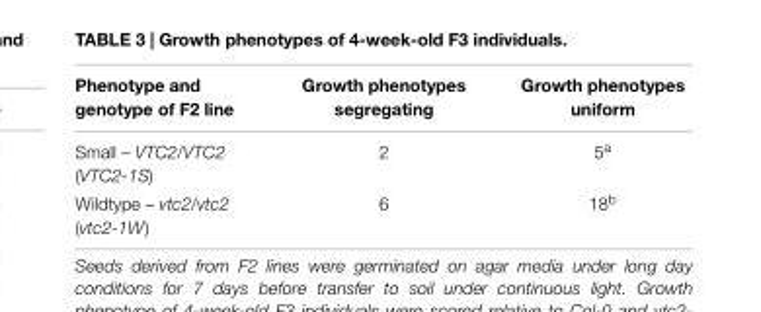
<table><thead><tr><td>Phenotype and genotype of F2 line</td><td>Growth phenotypes segregating</td><td>Growth phenotypes uniform</td></tr></thead><tbody><tr><td>Small – VTC2/VTC2 (VTC2-1S)</td><td>2</td><td>5<sup>a</sup></td></tr><tr><td>Wildtype – vtc2/vtc2 (vtc2-1W)</td><td>6</td><td>18<sup>b</sup></td></tr></tbody></table>